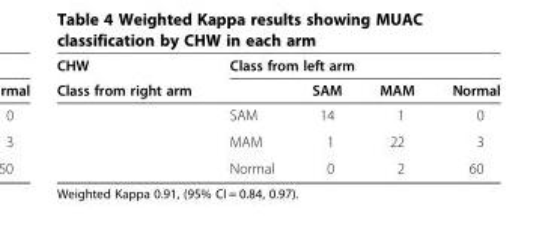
<table><thead><tr><td rowspan="2">CHW Class from right arm</td><td colspan="4">Class from left arm</td></tr><tr><td></td><td>SAM</td><td>MAM</td><td>Normal</td></tr></thead><tbody><tr><td></td><td>SAM</td><td>14</td><td>1</td><td>0</td></tr><tr><td></td><td>MAM</td><td>1</td><td>22</td><td>3</td></tr><tr><td></td><td>Normal</td><td>0</td><td>2</td><td>60</td></tr></tbody></table>